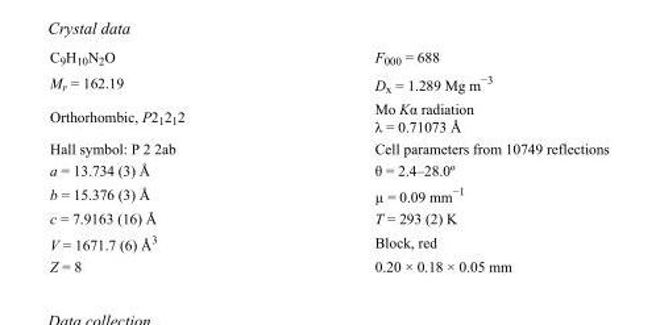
<table><tbody><tr><td>C<sub>9</sub>H<sub>10</sub>N<sub>2</sub>O</td><td>F<sub>000</sub> = 688</td></tr><tr><td>M<sub>r</sub> = 162.19</td><td>D<sub>x</sub> = 1.289 Mg m<sup>−3</sup></td></tr><tr><td>Orthorhombic, P2<sub>1</sub>2<sub>1</sub>2</td><td>Mo Kα radiation λ = 0.71073 Å</td></tr><tr><td>Hall symbol: P 2 2ab</td><td>Cell parameters from 10749 reflections</td></tr><tr><td>a = 13.734 (3) Å</td><td>θ = 2.4–28.0º</td></tr><tr><td>b = 15.376 (3) Å</td><td>µ = 0.09 mm<sup>−1</sup></td></tr><tr><td>c = 7.9163 (16) Å</td><td>T = 293 (2) K</td></tr><tr><td>V = 1671.7 (6) Å<sup>3</sup></td><td>Block, red</td></tr><tr><td>Z = 8</td><td>0.20 × 0.18 × 0.05 mm</td></tr></tbody></table>